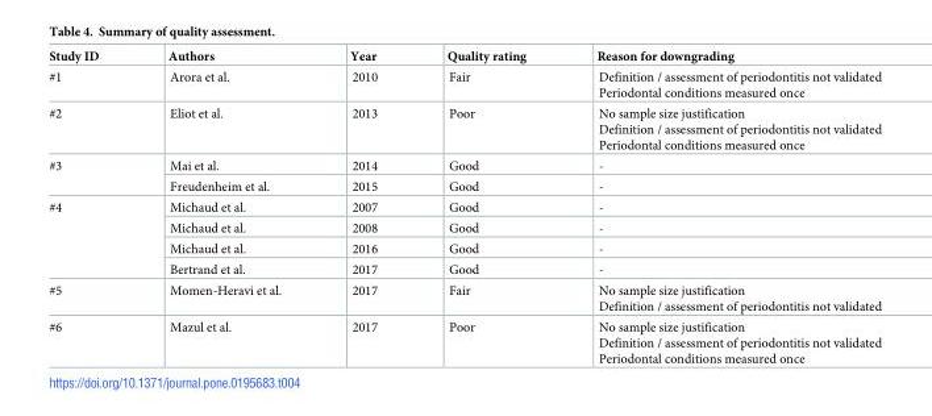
<table><thead><tr><td>Study ID</td><td>Authors</td><td>Year</td><td>Quality rating</td><td>Reason for downgrading</td></tr></thead><tbody><tr><td>#1</td><td>Arora et al.</td><td>2010</td><td>Fair</td><td>Definition / assessment of periodontitis not validated Periodontal conditions measured once</td></tr><tr><td>#2</td><td>Eliot et al.</td><td>2013</td><td>Poor</td><td>No sample size justification Definition / assessment of periodontitis not validated Periodontal conditions measured once</td></tr><tr><td rowspan="2">#3</td><td>Mai et al.</td><td>2014</td><td>Good</td><td>-</td></tr><tr><td>Freudenheim et al.</td><td>2015</td><td>Good</td><td>-</td></tr><tr><td rowspan="4">#4</td><td>Michaud et al.</td><td>2007</td><td>Good</td><td>-</td></tr><tr><td>Michaud et al.</td><td>2008</td><td>Good</td><td>-</td></tr><tr><td>Michaud et al.</td><td>2016</td><td>Good</td><td>-</td></tr><tr><td>Bertrand et al.</td><td>2017</td><td>Good</td><td>-</td></tr><tr><td>#5</td><td>Momen-Heravi et al.</td><td>2017</td><td>Fair</td><td>No sample size justification Definition / assessment of periodontitis not validated</td></tr><tr><td>#6</td><td>Mazul et al.</td><td>2017</td><td>Poor</td><td>No sample size justification Definition / assessment of periodontitis not validated Periodontal conditions measured once</td></tr></tbody></table>